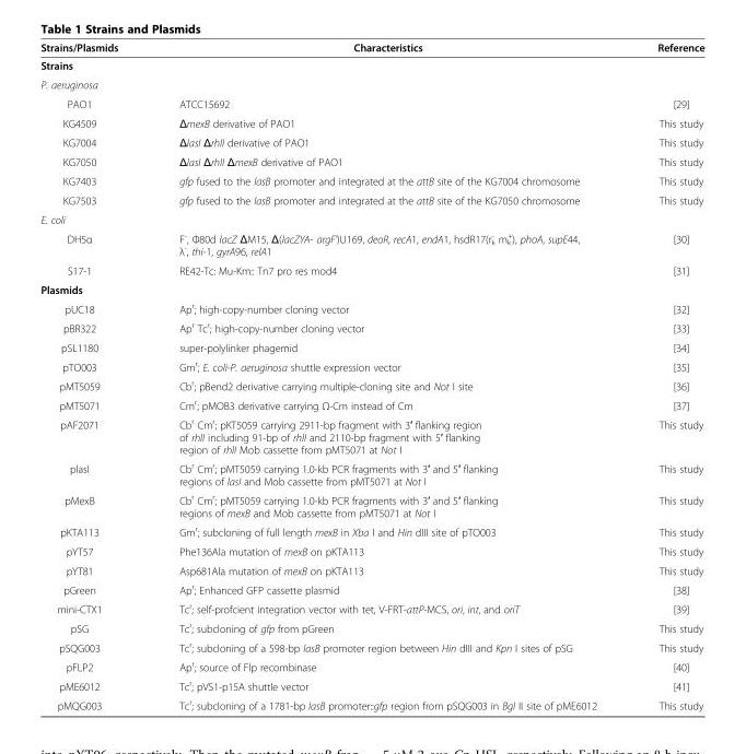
<table><thead><tr><td>Strains/Plasmids</td><td>Characteristics</td><td>Reference</td></tr></thead><tbody><tr><td colspan="3">Strains</td></tr><tr><td colspan="3">P. aeruginosa</td></tr><tr><td>PAO1</td><td>ATCC15692</td><td>[29]</td></tr><tr><td>KG4509</td><td>ΔmexB derivative of PAO1</td><td>This study</td></tr><tr><td>KG7004</td><td>ΔlasI ΔrhlI derivative of PAO1</td><td>This study</td></tr><tr><td>KG7050</td><td>ΔlasI ΔrhlI ΔmexB derivative of PAO1</td><td>This study</td></tr><tr><td>KG7403</td><td>gfp fused to the lasB promoter and integrated at the attB site of the KG7004 chromosome</td><td>This study</td></tr><tr><td>KG7503</td><td>gfp fused to the lasB promoter and integrated at the attB site of the KG7050 chromosome</td><td>This study</td></tr><tr><td colspan="3">E. coli</td></tr><tr><td>DH5α</td><td>F<sup>-</sup>, Φ80d lacZ ΔM15, Δ(lacZYA- argF&#x27;)U169, deoR, recA1, endA1, hsdR17(r<sub>k</sub> <sup>-</sup> m<sub>k</sub> <sup>+</sup>), phoA, supE44, λ<sup>-</sup>, thi-1, gyrA96, relA1</td><td>[30]</td></tr><tr><td>S17-1</td><td>RE42-Tc: Mu-Km:: Tn7 pro res mod4</td><td>[31]</td></tr><tr><td colspan="3">Plasmids</td></tr><tr><td>pUC18</td><td>Ap<sup>r</sup>; high-copy-number cloning vector</td><td>[32]</td></tr><tr><td>pBR322</td><td>Ap<sup>r</sup> Tc<sup>r</sup>; high-copy-number cloning vector</td><td>[33]</td></tr><tr><td>pSL1180</td><td>super-polylinker phagemid</td><td>[34]</td></tr><tr><td>pTO003</td><td>Gm<sup>r</sup>; E. coli-P. aeruginosa shuttle expression vector</td><td>[35]</td></tr><tr><td>pMT5059</td><td>Cb<sup>r</sup>; pBend2 derivative carrying multiple-cloning site and Not I site</td><td>[36]</td></tr><tr><td>pMT5071</td><td>Cm<sup>r</sup>; pMOB3 derivative carrying Ω-Cm instead of Cm</td><td>[37]</td></tr><tr><td>pAF2071</td><td>Cb<sup>r</sup> Cm<sup>r</sup>; pKT5059 carrying 2911-bp fragment with 3′ flanking region of rhlI including 91-bp of rhlI and 2110-bp fragment with 5′ flanking region of rhlI Mob cassette from pMT5071 at Not I</td><td>This study</td></tr><tr><td>plasI</td><td>Cb<sup>r</sup> Cm<sup>r</sup>; pMT5059 carrying 1.0-kb PCR fragments with 3′ and 5′ flanking regions of lasI and Mob cassette from pMT5071 at Not I</td><td>This study</td></tr><tr><td>pMexB</td><td>Cb<sup>r</sup> Cm<sup>r</sup>; pMT5059 carrying 1.0-kb PCR fragments with 3′ and 5′ flanking regions of mexB and Mob cassette from pMT5071 at Not I</td><td>This study</td></tr><tr><td>pKTA113</td><td>Gm<sup>r</sup>; subcloning of full length mexB in Xba I and Hin dIII site of pTO003</td><td>This study</td></tr><tr><td>pYT57</td><td>Phe136Ala mutation of mexB on pKTA113</td><td>This study</td></tr><tr><td>pYT81</td><td>Asp681Ala mutation of mexB on pKTA113</td><td>This study</td></tr><tr><td>pGreen</td><td>Ap<sup>r</sup>; Enhanced GFP cassette plasmid</td><td>[38]</td></tr><tr><td>mini-CTX1</td><td>Tc<sup>r</sup>; self-profcient integration vector with tet, V-FRT-attP-MCS, ori, int, and oriT</td><td>[39]</td></tr><tr><td>pSG</td><td>Tc<sup>r</sup>; subcloning of gfp from pGreen</td><td>This study</td></tr><tr><td>pSQG003</td><td>Tc<sup>r</sup>; subcloning of a 598-bp lasB promoter region between Hin dIII and Kpn I sites of pSG</td><td>This study</td></tr><tr><td>pFLP2</td><td>Ap<sup>r</sup>; source of Flp recombinase</td><td>[40]</td></tr><tr><td>pME6012</td><td>Tc<sup>r</sup>; pVS1-p15A shuttle vector</td><td>[41]</td></tr><tr><td>pMQG003</td><td>Tc<sup>r</sup>; subcloning of a 1781-bp lasB promoter::gfp region from pSQG003 in Bgl II site of pME6012</td><td>This study</td></tr></tbody></table>